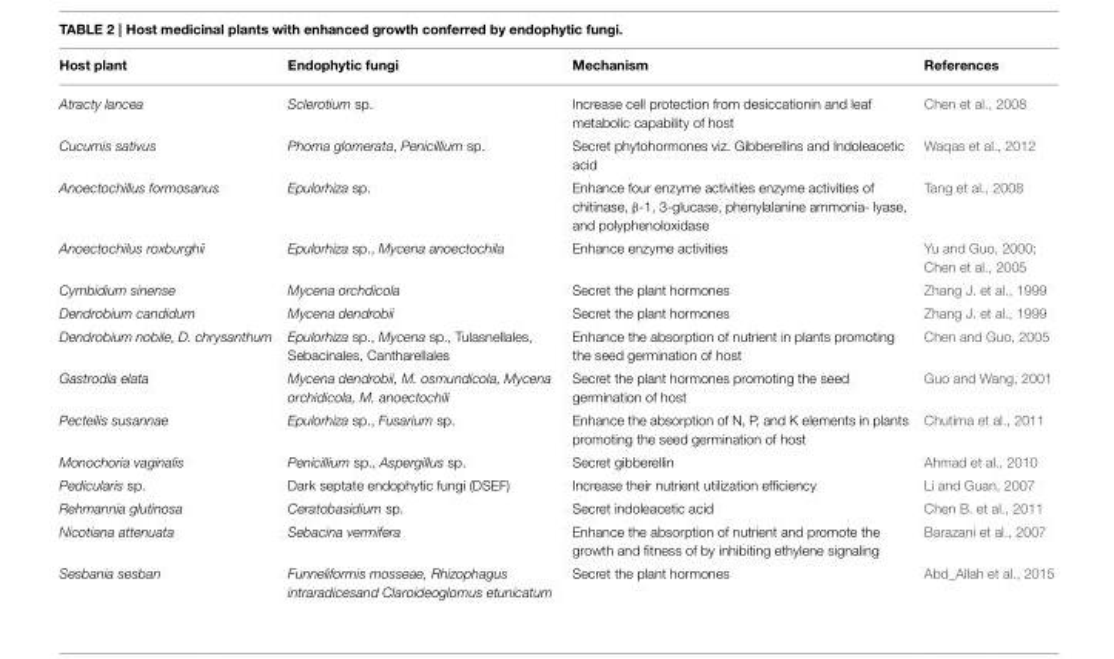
<table><thead><tr><td>Host plant</td><td>Endophytic fungi</td><td>Mechanism</td><td>References</td></tr></thead><tbody><tr><td>Atracty lancea</td><td>Sclerotium sp.</td><td>Increase cell protection from desiccationin and leaf metabolic capability of host</td><td>Chen et al., 2008</td></tr><tr><td>Cucumis sativus</td><td>Phoma glomerata, Penicillium sp.</td><td>Secret phytohormones viz. Gibberellins and Indoleacetic acid</td><td>Waqas et al., 2012</td></tr><tr><td>Anoectochillus formosanus</td><td>Epulorhiza sp.</td><td>Enhance four enzyme activities enzyme activities of chitinase, β-1, 3-glucase, phenylalanine ammonia- lyase, and polyphenoloxidase</td><td>Tang et al., 2008</td></tr><tr><td>Anoectochilus roxburghii</td><td>Epulorhiza sp., Mycena anoectochila</td><td>Enhance enzyme activities</td><td>Yu and Guo, 2000; Chen et al., 2005</td></tr><tr><td>Cymbidium sinense</td><td>Mycena orchdicola</td><td>Secret the plant hormones</td><td>Zhang J. et al., 1999</td></tr><tr><td>Dendrobium candidum</td><td>Mycena dendrobii</td><td>Secret the plant hormones</td><td>Zhang J. et al., 1999</td></tr><tr><td>Dendrobium nobile, D. chrysanthum</td><td>Epulorhiza sp., Mycena sp., Tulasnellales, Sebacinales, Cantharellales</td><td>Enhance the absorption of nutrient in plants promoting the seed germination of host</td><td>Chen and Guo, 2005</td></tr><tr><td>Gastrodia elata</td><td>Mycena dendrobii, M. osmundicola, Mycena orchidicola, M. anoectochili</td><td>Secret the plant hormones promoting the seed germination of host</td><td>Guo and Wang, 2001</td></tr><tr><td>Pecteilis susannae</td><td>Epulorhiza sp., Fusarium sp.</td><td>Enhance the absorption of N, P, and K elements in plants promoting the seed germination of host</td><td>Chutima et al., 2011</td></tr><tr><td>Monochoria vaginalis</td><td>Penicillium sp., Aspergillus sp.</td><td>Secret gibberellin</td><td>Ahmad et al., 2010</td></tr><tr><td>Pedicularis sp.</td><td>Dark septate endophytic fungi (DSEF)</td><td>Increase their nutrient utilization efficiency</td><td>Li and Guan, 2007</td></tr><tr><td>Rehmannia glutinosa</td><td>Ceratobasidium sp.</td><td>Secret indoleacetic acid</td><td>Chen B. et al., 2011</td></tr><tr><td>Nicotiana attenuata</td><td>Sebacina vermifera</td><td>Enhance the absorption of nutrient and promote the growth and fitness of by inhibiting ethylene signaling</td><td>Barazani et al., 2007</td></tr><tr><td>Sesbania sesban</td><td>Funneliformis mosseae, Rhizophagus intraradicesand Claroideoglomus etunicatum</td><td>Secret the plant hormones</td><td>Abd_Allah et al., 2015</td></tr></tbody></table>